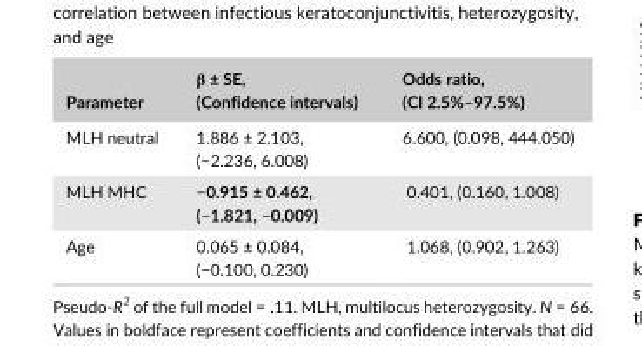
<table><thead><tr><td>Parameter</td><td>β ± SE, (Confidence intervals)</td><td>Odds ratio, (CI 2.5%–97.5%)</td></tr></thead><tbody><tr><td>MLH neutral</td><td>1.886 ± 2.103, (−2.236, 6.008)</td><td>6.600, (0.098, 444.050)</td></tr><tr><td>MLH MHC</td><td>−0.915 ± 0.462, (−1.821, −0.009)</td><td>0.401, (0.160, 1.008)</td></tr><tr><td>Age</td><td>0.065 ± 0.084, (−0.100, 0.230)</td><td>1.068, (0.902, 1.263)</td></tr></tbody></table>